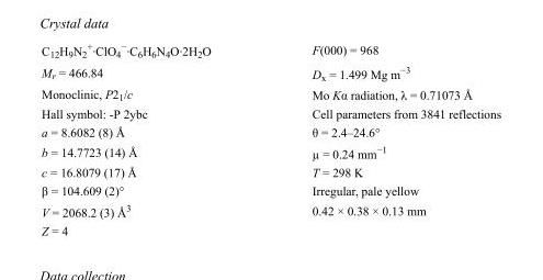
<table><tbody><tr><td>C<sub>12</sub>H<sub>9</sub>N<sub>2</sub> <sup>+</sup>·ClO<sub>4</sub> <sup>−</sup>·C<sub>6</sub>H<sub>6</sub>N<sub>4</sub>O·2H<sub>2</sub>O</td><td>F(000) = 968</td></tr><tr><td>M<sub>r</sub> = 466.84</td><td>D<sub>x</sub> = 1.499 Mg m<sup>−3</sup></td></tr><tr><td>Monoclinic, P2<sub>1</sub>/c</td><td>Mo Kα radiation, λ = 0.71073 Å</td></tr><tr><td>Hall symbol: -P 2ybc</td><td>Cell parameters from 3841 reflections</td></tr><tr><td>a = 8.6082 (8) Å</td><td>θ = 2.4–24.6°</td></tr><tr><td>b = 14.7723 (14) Å</td><td>µ = 0.24 mm<sup>−1</sup></td></tr><tr><td>c = 16.8079 (17) Å</td><td>T = 298 K</td></tr><tr><td>β = 104.609 (2)°</td><td>Irregular, pale yellow</td></tr><tr><td>V = 2068.2 (3) Å<sup>3</sup></td><td>0.42 × 0.38 × 0.13 mm</td></tr><tr><td>Z = 4</td><td></td></tr></tbody></table>